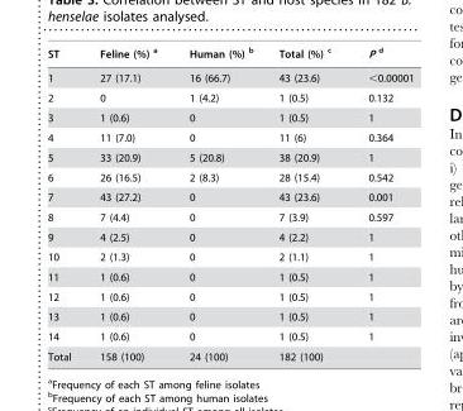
<table><thead><tr><td>ST</td><td>Feline (%) a</td><td>Human (%) b</td><td>Total (%) c</td><td>P d</td></tr></thead><tbody><tr><td>1</td><td>27 (17.1)</td><td>16 (66.7)</td><td>43 (23.6)</td><td>&lt;0.00001</td></tr><tr><td>2</td><td>0</td><td>1 (4.2)</td><td>1 (0.5)</td><td>0.132</td></tr><tr><td>3</td><td>1 (0.6)</td><td>0</td><td>1 (0.5)</td><td>1</td></tr><tr><td>4</td><td>11 (7.0)</td><td>0</td><td>11 (6)</td><td>0.364</td></tr><tr><td>5</td><td>33 (20.9)</td><td>5 (20.8)</td><td>38 (20.9)</td><td>1</td></tr><tr><td>6</td><td>26 (16.5)</td><td>2 (8.3)</td><td>28 (15.4)</td><td>0.542</td></tr><tr><td>7</td><td>43 (27.2)</td><td>0</td><td>43 (23.6)</td><td>0.001</td></tr><tr><td>8</td><td>7 (4.4)</td><td>0</td><td>7 (3.9)</td><td>0.597</td></tr><tr><td>9</td><td>4 (2.5)</td><td>0</td><td>4 (2.2)</td><td>1</td></tr><tr><td>10</td><td>2 (1.3)</td><td>0</td><td>2 (1.1)</td><td>1</td></tr><tr><td>11</td><td>1 (0.6)</td><td>0</td><td>1 (0.5)</td><td>1</td></tr><tr><td>12</td><td>1 (0.6)</td><td>0</td><td>1 (0.5)</td><td>1</td></tr><tr><td>13</td><td>1 (0.6)</td><td>0</td><td>1 (0.5)</td><td>1</td></tr><tr><td>14</td><td>1 (0.6)</td><td>0</td><td>1 (0.5)</td><td>1</td></tr><tr><td>Total</td><td>158 (100)</td><td>24 (100)</td><td>182 (100)</td><td></td></tr></tbody></table>